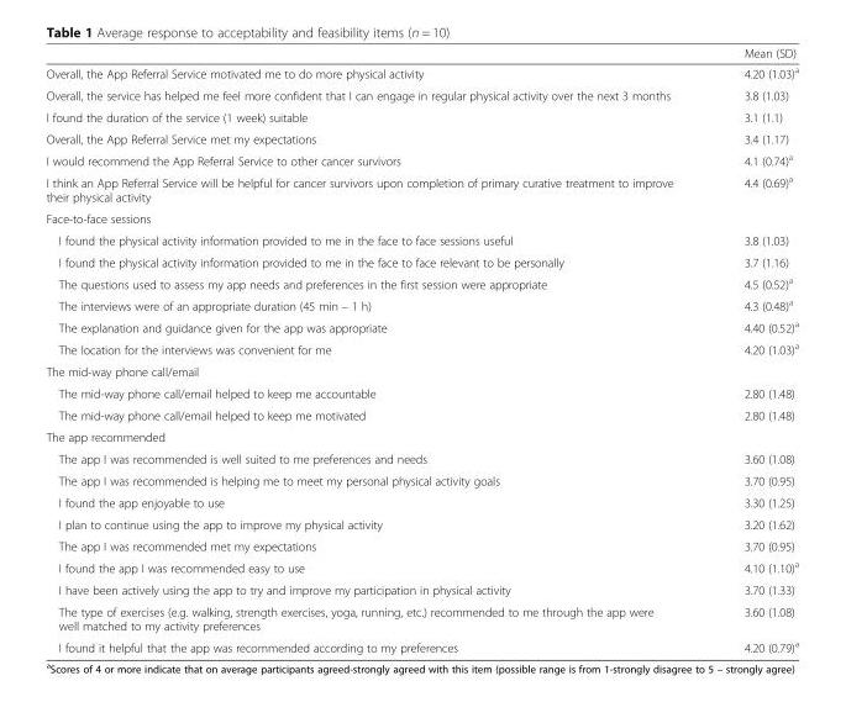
<table><thead><tr><td></td><td>Mean (SD)</td></tr></thead><tbody><tr><td>Overall, the App Referral Service motivated me to do more physical activity</td><td>4.20 (1.03)<sup>a</sup></td></tr><tr><td>Overall, the service has helped me feel more confident that I can engage in regular physical activity over the next 3 months</td><td>3.8 (1.03)</td></tr><tr><td>I found the duration of the service (1 week) suitable</td><td>3.1 (1.1)</td></tr><tr><td>Overall, the App Referral Service met my expectations</td><td>3.4 (1.17)</td></tr><tr><td>I would recommend the App Referral Service to other cancer survivors</td><td>4.1 (0.74)<sup>a</sup></td></tr><tr><td>I think an App Referral Service will be helpful for cancer survivors upon completion of primary curative treatment to improve their physical activity</td><td>4.4 (0.69)<sup>a</sup></td></tr><tr><td colspan="2">Face-to-face sessions</td></tr><tr><td>I found the physical activity information provided to me in the face to face sessions useful</td><td>3.8 (1.03)</td></tr><tr><td>I found the physical activity information provided to me in the face to face relevant to be personally</td><td>3.7 (1.16)</td></tr><tr><td>The questions used to assess my app needs and preferences in the first session were appropriate</td><td>4.5 (0.52)<sup>a</sup></td></tr><tr><td>The interviews were of an appropriate duration (45 min – 1 h)</td><td>4.3 (0.48)<sup>a</sup></td></tr><tr><td>The explanation and guidance given for the app was appropriate</td><td>4.40 (0.52)<sup>a</sup></td></tr><tr><td>The location for the interviews was convenient for me</td><td>4.20 (1.03)<sup>a</sup></td></tr><tr><td colspan="2">The mid-way phone call/email</td></tr><tr><td>The mid-way phone call/email helped to keep me accountable</td><td>2.80 (1.48)</td></tr><tr><td>The mid-way phone call/email helped to keep me motivated</td><td>2.80 (1.48)</td></tr><tr><td colspan="2">The app recommended</td></tr><tr><td>The app I was recommended is well suited to me preferences and needs</td><td>3.60 (1.08)</td></tr><tr><td>The app I was recommended is helping me to meet my personal physical activity goals</td><td>3.70 (0.95)</td></tr><tr><td>I found the app enjoyable to use</td><td>3.30 (1.25)</td></tr><tr><td>I plan to continue using the app to improve my physical activity</td><td>3.20 (1.62)</td></tr><tr><td>The app I was recommended met my expectations</td><td>3.70 (0.95)</td></tr><tr><td>I found the app I was recommended easy to use</td><td>4.10 (1.10)<sup>a</sup></td></tr><tr><td>I have been actively using the app to try and improve my participation in physical activity</td><td>3.70 (1.33)</td></tr><tr><td>The type of exercises (e.g. walking, strength exercises, yoga, running, etc.) recommended to me through the app were well matched to my activity preferences</td><td>3.60 (1.08)</td></tr><tr><td>I found it helpful that the app was recommended according to my preferences</td><td>4.20 (0.79)<sup>a</sup></td></tr></tbody></table>